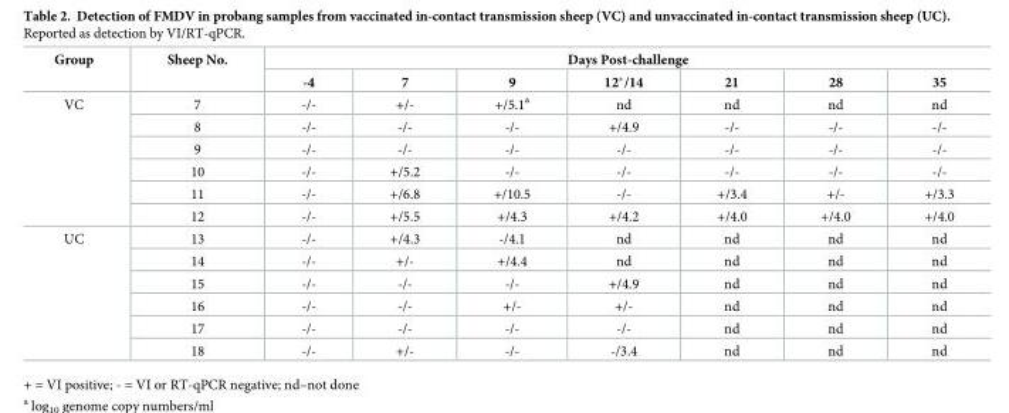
<table><thead><tr><td rowspan="2">Group</td><td rowspan="2">Sheep No.</td><td colspan="7">Days Post-challenge</td></tr><tr><td>-4</td><td>7</td><td>9</td><td>12*/14</td><td>21</td><td>28</td><td>35</td></tr></thead><tbody><tr><td rowspan="6">VC</td><td>7</td><td>-/-</td><td>+/-</td><td>+/5.1<sup>a</sup></td><td>nd</td><td>nd</td><td>nd</td><td>nd</td></tr><tr><td>8</td><td>-/-</td><td>-/-</td><td>-/-</td><td>+/4.9</td><td>-/-</td><td>-/-</td><td>-/-</td></tr><tr><td>9</td><td>-/-</td><td>-/-</td><td>-/-</td><td>-/-</td><td>-/-</td><td>-/-</td><td>-/-</td></tr><tr><td>10</td><td>-/-</td><td>+/5.2</td><td>-/-</td><td>-/-</td><td>-/-</td><td>-/-</td><td>-/-</td></tr><tr><td>11</td><td>-/-</td><td>+/6.8</td><td>+/10.5</td><td>-/-</td><td>+/3.4</td><td>+/-</td><td>+/3.3</td></tr><tr><td>12</td><td>-/-</td><td>+/5.5</td><td>+/4.3</td><td>+/4.2</td><td>+/4.0</td><td>+/4.0</td><td>+/4.0</td></tr><tr><td rowspan="6">UC</td><td>13</td><td>-/-</td><td>+/4.3</td><td>-/4.1</td><td>nd</td><td>nd</td><td>nd</td><td>nd</td></tr><tr><td>14</td><td>-/-</td><td>+/-</td><td>+/4.4</td><td>nd</td><td>nd</td><td>nd</td><td>nd</td></tr><tr><td>15</td><td>-/-</td><td>-/-</td><td>-/-</td><td>+/4.9</td><td>nd</td><td>nd</td><td>nd</td></tr><tr><td>16</td><td>-/-</td><td>-/-</td><td>+/-</td><td>+/-</td><td>nd</td><td>nd</td><td>nd</td></tr><tr><td>17</td><td>-/-</td><td>-/-</td><td>-/-</td><td>-/-</td><td>nd</td><td>nd</td><td>nd</td></tr><tr><td>18</td><td>-/-</td><td>+/-</td><td>-/-</td><td>-/3.4</td><td>nd</td><td>nd</td><td>nd</td></tr></tbody></table>